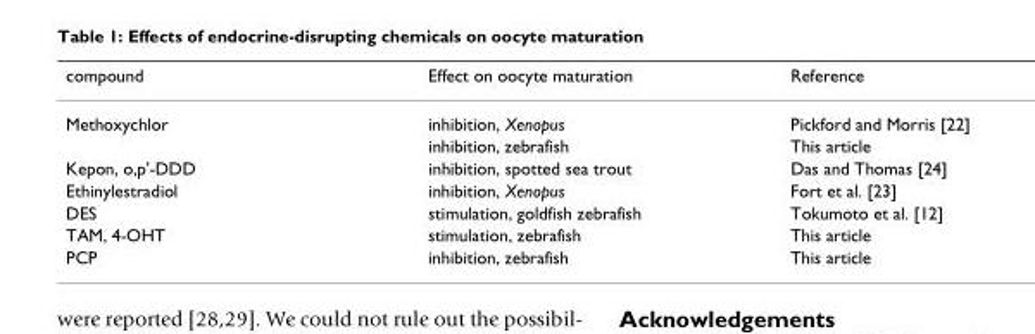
<table><thead><tr><td>compound</td><td>Effect on oocyte maturation</td><td>Reference</td></tr></thead><tbody><tr><td rowspan="2">Methoxychlor</td><td>inhibition, Xenopus</td><td>Pickford and Morris [22]</td></tr><tr><td>inhibition, zebrafish</td><td>This article</td></tr><tr><td>Kepon, o,p&#x27;-DDD</td><td>inhibition, spotted sea trout</td><td>Das and Thomas [24]</td></tr><tr><td>Ethinylestradiol</td><td>inhibition, Xenopus</td><td>Fort et al. [23]</td></tr><tr><td>DES</td><td>stimulation, goldfish zebrafish</td><td>Tokumoto et al. [12]</td></tr><tr><td>TAM, 4-OHT</td><td>stimulation, zebrafish</td><td>This article</td></tr><tr><td>PCP</td><td>inhibition, zebrafish</td><td>This article</td></tr></tbody></table>